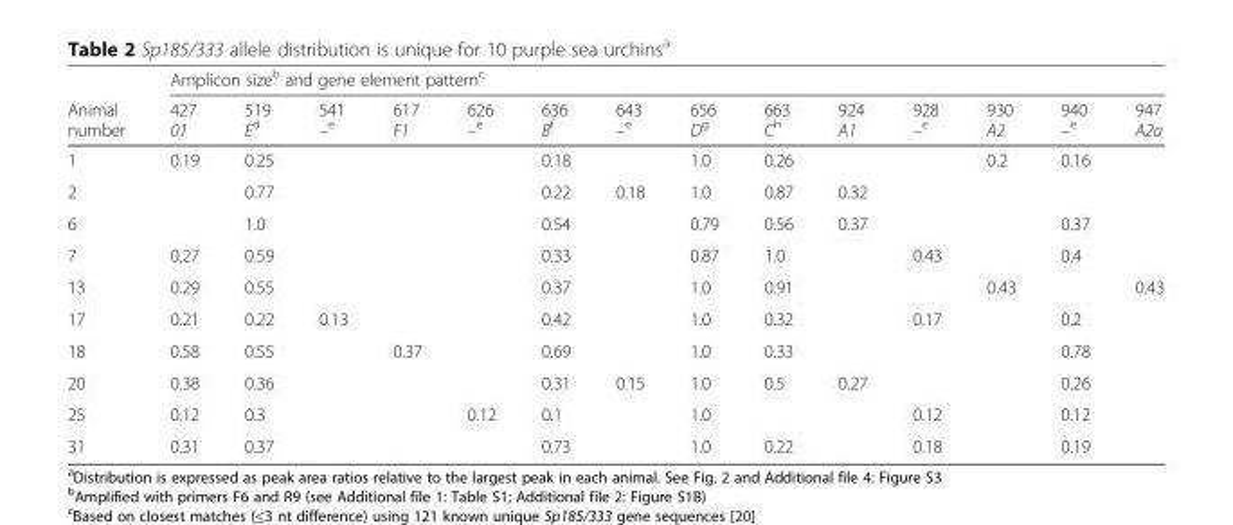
<table><thead><tr><td rowspan="2">Animal number</td><td colspan="14">Amplicon size<sup>b</sup> and gene element pattern<sup>c</sup></td></tr><tr><td>427 01</td><td>519 E<sup>d</sup></td><td>541 –<sup>e</sup></td><td>617 F1</td><td>626 –<sup>e</sup></td><td>636 B<sup>f</sup></td><td>643 –<sup>e</sup></td><td>656 D<sup>g</sup></td><td>663 C<sup>h</sup></td><td>924 A1</td><td>928 –<sup>e</sup></td><td>930 A2</td><td>940 –<sup>e</sup></td><td>947 A2a</td></tr></thead><tbody><tr><td>1</td><td>0.19</td><td>0.25</td><td></td><td></td><td></td><td>0.18</td><td></td><td>1.0</td><td>0.26</td><td></td><td></td><td>0.2</td><td>0.16</td><td></td></tr><tr><td>2</td><td></td><td>0.77</td><td></td><td></td><td></td><td>0.22</td><td>0.18</td><td>1.0</td><td>0.87</td><td>0.32</td><td></td><td></td><td></td><td></td></tr><tr><td>6</td><td></td><td>1.0</td><td></td><td></td><td></td><td>0.54</td><td></td><td>0.79</td><td>0.56</td><td>0.37</td><td></td><td></td><td>0.37</td><td></td></tr><tr><td>7</td><td>0.27</td><td>0.59</td><td></td><td></td><td></td><td>0.33</td><td></td><td>0.87</td><td>1.0</td><td></td><td>0.43</td><td></td><td>0.4</td><td></td></tr><tr><td>13</td><td>0.29</td><td>0.55</td><td></td><td></td><td></td><td>0.37</td><td></td><td>1.0</td><td>0.91</td><td></td><td></td><td>0.43</td><td></td><td>0.43</td></tr><tr><td>17</td><td>0.21</td><td>0.22</td><td>0.13</td><td></td><td></td><td>0.42</td><td></td><td>1.0</td><td>0.32</td><td></td><td>0.17</td><td></td><td>0.2</td><td></td></tr><tr><td>18</td><td>0.58</td><td>0.55</td><td></td><td>0.37</td><td></td><td>0.69</td><td></td><td>1.0</td><td>0.33</td><td></td><td></td><td></td><td>0.78</td><td></td></tr><tr><td>20</td><td>0.38</td><td>0.36</td><td></td><td></td><td></td><td>0.31</td><td>0.15</td><td>1.0</td><td>0.5</td><td>0.27</td><td></td><td></td><td>0.26</td><td></td></tr><tr><td>25</td><td>0.12</td><td>0.3</td><td></td><td></td><td>0.12</td><td>0.1</td><td></td><td>1.0</td><td></td><td></td><td>0.12</td><td></td><td>0.12</td><td></td></tr><tr><td>31</td><td>0.31</td><td>0.37</td><td></td><td></td><td></td><td>0.73</td><td></td><td>1.0</td><td>0.22</td><td></td><td>0.18</td><td></td><td>0.19</td><td></td></tr></tbody></table>